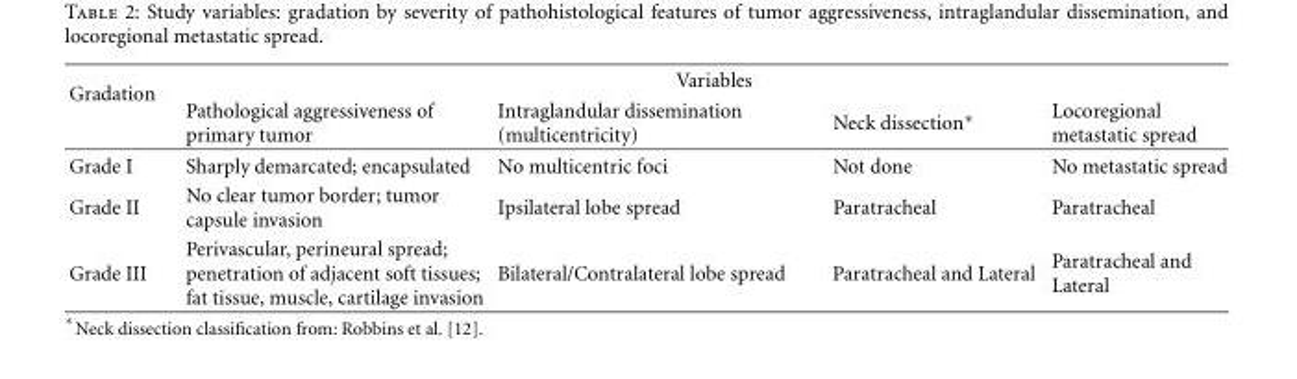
<table><thead><tr><td rowspan="2">Gradation</td><td colspan="4">Variables</td></tr><tr><td>Pathological aggressiveness of primary tumor</td><td>Intraglandular dissemination (multicentricity)</td><td>Neck dissection∗</td><td>Locoregional metastatic spread</td></tr></thead><tbody><tr><td>Grade I</td><td>Sharply demarcated; encapsulated</td><td>No multicentric foci</td><td>Not done</td><td>No metastatic spread</td></tr><tr><td>Grade II</td><td>No clear tumor border; tumor capsule invasion</td><td>Ipsilateral lobe spread</td><td>Paratracheal</td><td>Paratracheal</td></tr><tr><td>Grade III</td><td>Perivascular, perineural spread; penetration of adjacent soft tissues; fat tissue, muscle, cartilage invasion</td><td>Bilateral/Contralateral lobe spread</td><td>Paratracheal and Lateral</td><td>Paratracheal and Lateral</td></tr></tbody></table>